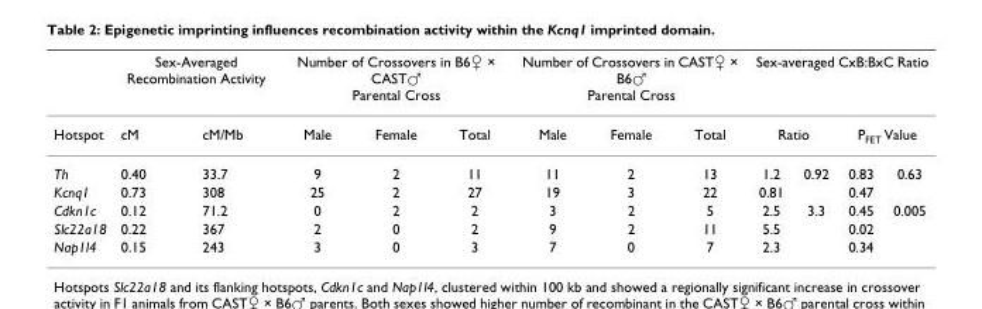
<table><thead><tr><td rowspan="3">Hotspot Th</td><td colspan="2">Sex-Averaged Recombination Activity</td><td colspan="3">Number of Crossovers in B6♀ × CAST♂ Parental Cross</td><td colspan="3">Number of Crossovers in CAST♀ × B6♂ Parental Cross</td><td colspan="4">Sex-averaged CxB:BxC Ratio</td></tr><tr><td rowspan="2">cM 0.40</td><td rowspan="2">cM/Mb 33.7</td><td rowspan="2">Male 9</td><td rowspan="2">Female 2</td><td rowspan="2">Total 11</td><td rowspan="2">Male 11</td><td rowspan="2">Female 2</td><td rowspan="2">Total 13</td><td colspan="2">Ratio</td><td colspan="2">PFET Value</td></tr><tr><td>1.2</td><td>0.92</td><td>0.83</td><td>0.63</td></tr></thead><tbody><tr><td>Kcnq1</td><td>0.73</td><td>308</td><td>25</td><td>2</td><td>27</td><td>19</td><td>3</td><td>22</td><td>0.81</td><td></td><td>0.47</td><td></td></tr><tr><td>Cdkn1c</td><td>0.12</td><td>71.2</td><td>0</td><td>2</td><td>2</td><td>3</td><td>2</td><td>5</td><td>2.5</td><td>3.3</td><td>0.45</td><td>0.005</td></tr><tr><td>Slc22a18</td><td>0.22</td><td>367</td><td>2</td><td>0</td><td>2</td><td>9</td><td>2</td><td>11</td><td>5.5</td><td></td><td>0.02</td><td></td></tr><tr><td>Nap1l4</td><td>0.15</td><td>243</td><td>3</td><td>0</td><td>3</td><td>7</td><td>0</td><td>7</td><td>2.3</td><td></td><td>0.34</td><td></td></tr></tbody></table>